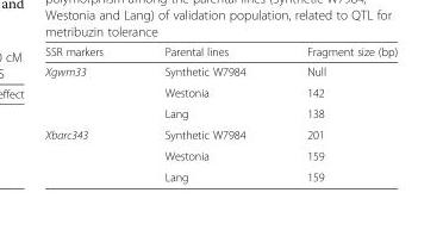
<table><thead><tr><td>SSR markers</td><td>Parental lines</td><td>Fragment size (bp)</td></tr></thead><tbody><tr><td rowspan="3">Xgwm33</td><td>Synthetic W7984</td><td>Null</td></tr><tr><td>Westonia</td><td>142</td></tr><tr><td>Lang</td><td>138</td></tr><tr><td rowspan="3">Xbarc343</td><td>Synthetic W7984</td><td>201</td></tr><tr><td>Westonia</td><td>159</td></tr><tr><td>Lang</td><td>159</td></tr></tbody></table>